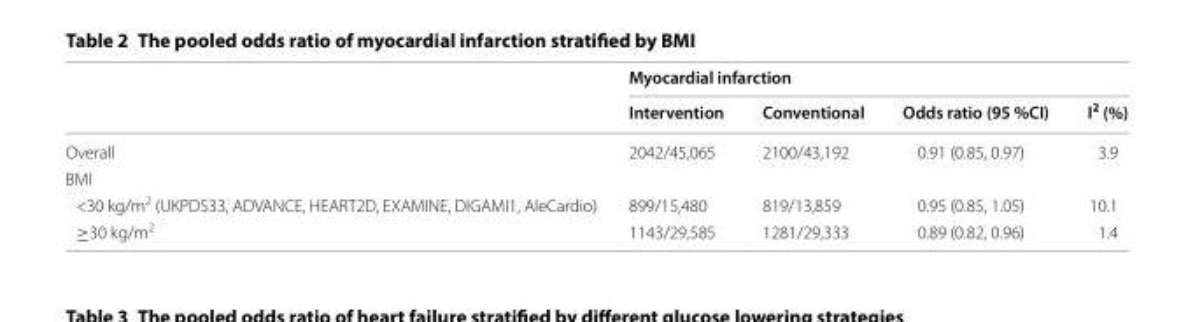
<table><thead><tr><td rowspan="2"></td><td colspan="4">Myocardial infarction</td></tr><tr><td>Intervention</td><td>Conventional</td><td>Odds ratio (95 %CI)</td><td>I<sup>2</sup> (%)</td></tr></thead><tbody><tr><td>Overall</td><td>2042/45,065</td><td>2100/43,192</td><td>0.91 (0.85, 0.97)</td><td>3.9</td></tr><tr><td colspan="5">BMI</td></tr><tr><td>&lt;30 kg/m<sup>2</sup> (UKPDS33, ADVANCE, HEART2D, EXAMINE, DIGAMI1, AleCardio)</td><td>899/15,480</td><td>819/13,859</td><td>0.95 (0.85, 1.05)</td><td>10.1</td></tr><tr><td>≥30 kg/m<sup>2</sup></td><td>1143/29,585</td><td>1281/29,333</td><td>0.89 (0.82, 0.96)</td><td>1.4</td></tr></tbody></table>